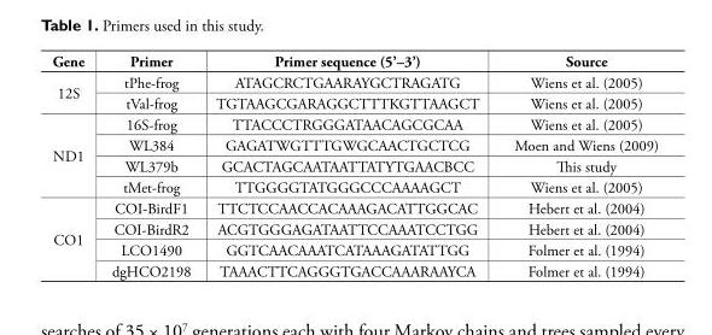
<table><thead><tr><td>Gene</td><td>Primer</td><td>Primer sequence (5’–3’)</td><td>Source</td></tr></thead><tbody><tr><td rowspan="2">12S</td><td>tPhe-frog</td><td>ATAGCRCTGAARAYGCTRAGATG</td><td>Wiens et al. (2005)</td></tr><tr><td>tVal-frog</td><td>TGTAAGCGARAGGCTTTKGTTAAGCT</td><td>Wiens et al. (2005)</td></tr><tr><td rowspan="4">ND1</td><td>16S-frog</td><td>TTACCCTRGGGATAACAGCGCAA</td><td>Wiens et al. (2005)</td></tr><tr><td>WL384</td><td>GAGATWGTTTGWGCAACTGCTCG</td><td>Moen and Wiens (2009)</td></tr><tr><td>WL379b</td><td>GCACTAGCAATAATTATYTGAACBCC</td><td>This study</td></tr><tr><td>tMet-frog</td><td>TTGGGGTATGGGCCCAAAAGCT</td><td>Wiens et al. (2005)</td></tr><tr><td rowspan="4">CO1</td><td>COI-BirdF1</td><td>TTCTCCAACCACAAAGACATTGGCAC</td><td>Hebert et al. (2004)</td></tr><tr><td>COI-BirdR2</td><td>ACGTGGGAGATAATTCCAAATCCTGG</td><td>Hebert et al. (2004)</td></tr><tr><td>LCO1490</td><td>GGTCAACAAATCATAAAGATATTGG</td><td>Folmer et al. (1994)</td></tr><tr><td>dgHCO2198</td><td>TAAACTTCAGGGTGACCAAARAAYCA</td><td>Folmer et al. (1994)</td></tr></tbody></table>